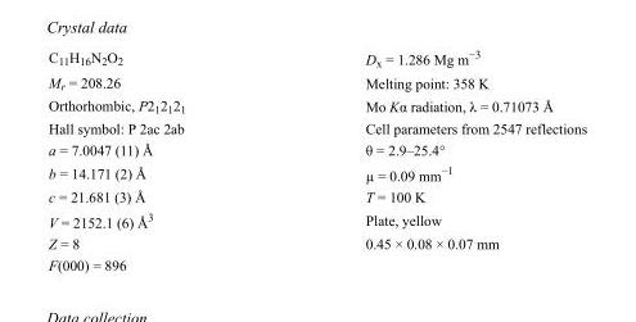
<table><tbody><tr><td>C<sub>11</sub>H<sub>16</sub>N<sub>2</sub>O<sub>2</sub></td><td>D<sub>x</sub> = 1.286 Mg m<sup>−3</sup></td></tr><tr><td>M<sub>r</sub> = 208.26</td><td>Melting point: 358 K</td></tr><tr><td>Orthorhombic, P2<sub>1</sub>2<sub>1</sub>2<sub>1</sub></td><td>Mo Kα radiation, λ = 0.71073 Å</td></tr><tr><td>Hall symbol: P 2ac 2ab</td><td>Cell parameters from 2547 reflections</td></tr><tr><td>a = 7.0047 (11) Å</td><td>θ = 2.9–25.4°</td></tr><tr><td>b = 14.171 (2) Å</td><td>µ = 0.09 mm<sup>−1</sup></td></tr><tr><td>c = 21.681 (3) Å</td><td>T = 100 K</td></tr><tr><td>V = 2152.1 (6) Å<sup>3</sup></td><td>Plate, yellow</td></tr><tr><td>Z = 8</td><td>0.45 × 0.08 × 0.07 mm</td></tr><tr><td>F(000) = 896</td><td></td></tr></tbody></table>